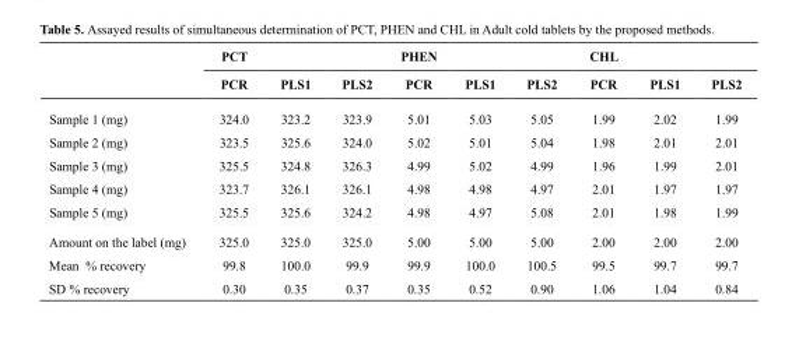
<table><thead><tr><td rowspan="2"></td><td colspan="3">PCT</td><td colspan="3">PHEN</td><td colspan="3">CHL</td></tr><tr><td>PCR</td><td>PLS1</td><td>PLS2</td><td>PCR</td><td>PLS1</td><td>PLS2</td><td>PCR</td><td>PLS1</td><td>PLS2</td></tr></thead><tbody><tr><td>Sample 1 (mg)</td><td>324.0</td><td>323.2</td><td>323.9</td><td>5.01</td><td>5.03</td><td>5.05</td><td>1.99</td><td>2.02</td><td>1.99</td></tr><tr><td>Sample 2 (mg)</td><td>323.5</td><td>325.6</td><td>324.0</td><td>5.02</td><td>5.01</td><td>5.04</td><td>1.98</td><td>2.01</td><td>2.01</td></tr><tr><td>Sample 3 (mg)</td><td>325.5</td><td>324.8</td><td>326.3</td><td>4.99</td><td>5.02</td><td>4.99</td><td>1.96</td><td>1.99</td><td>2.01</td></tr><tr><td>Sample 4 (mg)</td><td>323.7</td><td>326.1</td><td>326.1</td><td>4.98</td><td>4.98</td><td>4.97</td><td>2.01</td><td>1.97</td><td>1.97</td></tr><tr><td>Sample 5 (mg)</td><td>325.5</td><td>325.6</td><td>324.2</td><td>4.98</td><td>4.97</td><td>5.08</td><td>2.01</td><td>1.98</td><td>1.99</td></tr><tr><td>Amount on the label (mg)</td><td>325.0</td><td>325.0</td><td>325.0</td><td>5.00</td><td>5.00</td><td>5.00</td><td>2.00</td><td>2.00</td><td>2.00</td></tr><tr><td>Mean % recovery</td><td>99.8</td><td>100.0</td><td>99.9</td><td>99.9</td><td>100.0</td><td>100.5</td><td>99.5</td><td>99.7</td><td>99.7</td></tr><tr><td>SD % recovery</td><td>0.30</td><td>0.35</td><td>0.37</td><td>0.35</td><td>0.52</td><td>0.90</td><td>1.06</td><td>1.04</td><td>0.84</td></tr></tbody></table>